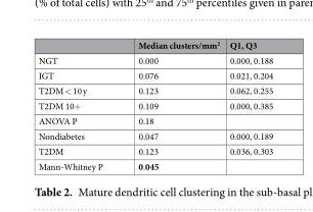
<table><thead><tr><td></td><td>Median clusters/mm<sup>2</sup></td><td>Q1, Q3</td></tr></thead><tbody><tr><td>NGT</td><td>0.000</td><td>0.000, 0.188</td></tr><tr><td>IGT</td><td>0.076</td><td>0.021, 0.204</td></tr><tr><td>T2DM &lt; 10 y</td><td>0.123</td><td>0.062, 0.255</td></tr><tr><td>T2DM 10+</td><td>0.109</td><td>0.000, 0.385</td></tr><tr><td>ANOVA P</td><td>0.18</td><td></td></tr><tr><td>Nondiabetes</td><td>0.047</td><td>0.000, 0.189</td></tr><tr><td>T2DM</td><td>0.123</td><td>0.036, 0.303</td></tr><tr><td>Mann-Whitney P</td><td>0.045</td><td></td></tr></tbody></table>